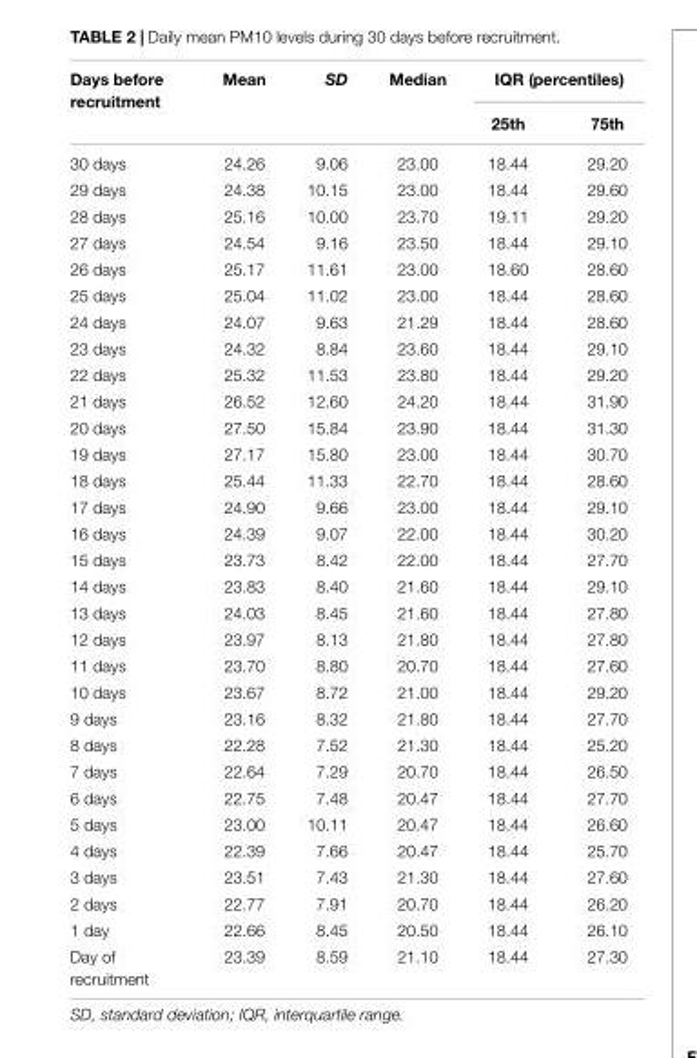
<table><thead><tr><td rowspan="2">Days before recruitment</td><td rowspan="2">Mean</td><td rowspan="2">SD</td><td rowspan="2">Median</td><td colspan="2">IQR (percentiles)</td></tr><tr><td>25th</td><td>75th</td></tr></thead><tbody><tr><td>30 days</td><td>24.26</td><td>9.06</td><td>23.00</td><td>18.44</td><td>29.20</td></tr><tr><td>29 days</td><td>24.38</td><td>10.15</td><td>23.00</td><td>18.44</td><td>29.60</td></tr><tr><td>28 days</td><td>25.16</td><td>10.00</td><td>23.70</td><td>19.11</td><td>29.20</td></tr><tr><td>27 days</td><td>24.54</td><td>9.16</td><td>23.50</td><td>18.44</td><td>29.10</td></tr><tr><td>26 days</td><td>25.17</td><td>11.61</td><td>23.00</td><td>18.60</td><td>28.60</td></tr><tr><td>25 days</td><td>25.04</td><td>11.02</td><td>23.00</td><td>18.44</td><td>28.60</td></tr><tr><td>24 days</td><td>24.07</td><td>9.63</td><td>21.29</td><td>18.44</td><td>28.60</td></tr><tr><td>23 days</td><td>24.32</td><td>8.84</td><td>23.60</td><td>18.44</td><td>29.10</td></tr><tr><td>22 days</td><td>25.32</td><td>11.53</td><td>23.80</td><td>18.44</td><td>29.20</td></tr><tr><td>21 days</td><td>26.52</td><td>12.60</td><td>24.20</td><td>18.44</td><td>31.90</td></tr><tr><td>20 days</td><td>27.50</td><td>15.84</td><td>23.90</td><td>18.44</td><td>31.30</td></tr><tr><td>19 days</td><td>27.17</td><td>15.80</td><td>23.00</td><td>18.44</td><td>30.70</td></tr><tr><td>18 days</td><td>25.44</td><td>11.33</td><td>22.70</td><td>18.44</td><td>28.60</td></tr><tr><td>17 days</td><td>24.90</td><td>9.66</td><td>23.00</td><td>18.44</td><td>29.10</td></tr><tr><td>16 days</td><td>24.39</td><td>9.07</td><td>22.00</td><td>18.44</td><td>30.20</td></tr><tr><td>15 days</td><td>23.73</td><td>8.42</td><td>22.00</td><td>18.44</td><td>27.70</td></tr><tr><td>14 days</td><td>23.83</td><td>8.40</td><td>21.60</td><td>18.44</td><td>29.10</td></tr><tr><td>13 days</td><td>24.03</td><td>8.45</td><td>21.60</td><td>18.44</td><td>27.80</td></tr><tr><td>12 days</td><td>23.97</td><td>8.13</td><td>21.80</td><td>18.44</td><td>27.80</td></tr><tr><td>11 days</td><td>23.70</td><td>8.80</td><td>20.70</td><td>18.44</td><td>27.60</td></tr><tr><td>10 days</td><td>23.67</td><td>8.72</td><td>21.00</td><td>18.44</td><td>29.20</td></tr><tr><td>9 days</td><td>23.16</td><td>8.32</td><td>21.80</td><td>18.44</td><td>27.70</td></tr><tr><td>8 days</td><td>22.28</td><td>7.52</td><td>21.30</td><td>18.44</td><td>25.20</td></tr><tr><td>7 days</td><td>22.64</td><td>7.29</td><td>20.70</td><td>18.44</td><td>26.50</td></tr><tr><td>6 days</td><td>22.75</td><td>7.48</td><td>20.47</td><td>18.44</td><td>27.70</td></tr><tr><td>5 days</td><td>23.00</td><td>10.11</td><td>20.47</td><td>18.44</td><td>26.60</td></tr><tr><td>4 days</td><td>22.39</td><td>7.66</td><td>20.47</td><td>18.44</td><td>25.70</td></tr><tr><td>3 days</td><td>23.51</td><td>7.43</td><td>21.30</td><td>18.44</td><td>27.60</td></tr><tr><td>2 days</td><td>22.77</td><td>7.91</td><td>20.70</td><td>18.44</td><td>26.20</td></tr><tr><td>1 day</td><td>22.66</td><td>8.45</td><td>20.50</td><td>18.44</td><td>26.10</td></tr><tr><td>Day of recruitment</td><td>23.39</td><td>8.59</td><td>21.10</td><td>18.44</td><td>27.30</td></tr></tbody></table>